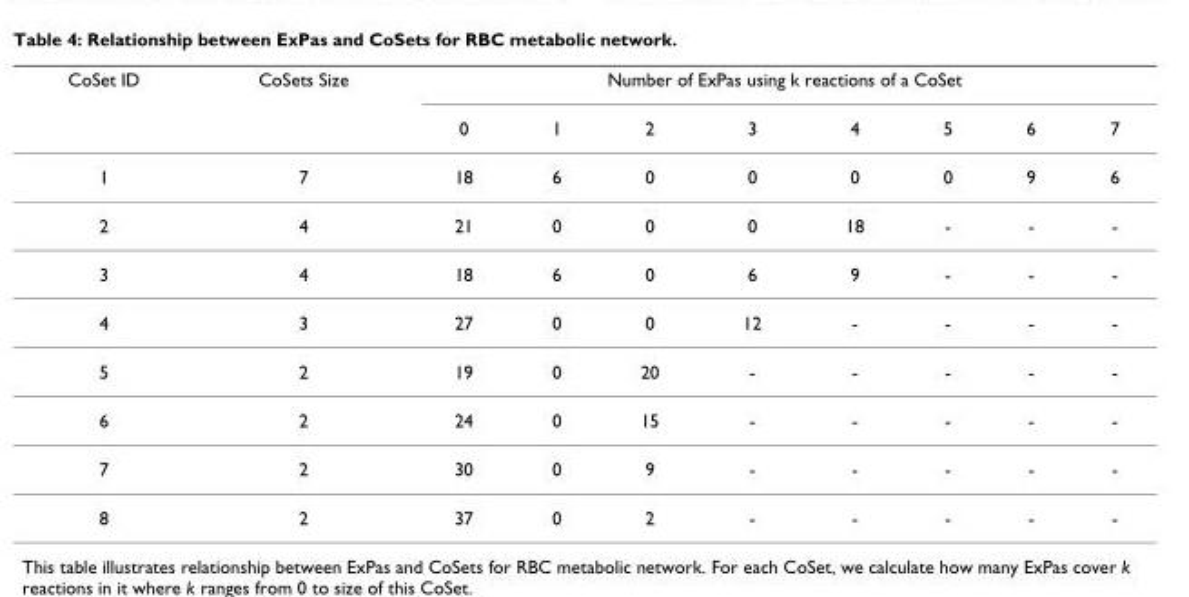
<table><thead><tr><td rowspan="2">CoSet ID</td><td rowspan="2">CoSets Size</td><td colspan="8">Number of ExPas using k reactions of a CoSet</td></tr><tr><td>0</td><td>1</td><td>2</td><td>3</td><td>4</td><td>5</td><td>6</td><td>7</td></tr></thead><tbody><tr><td>1</td><td>7</td><td>18</td><td>6</td><td>0</td><td>0</td><td>0</td><td>0</td><td>9</td><td>6</td></tr><tr><td>2</td><td>4</td><td>21</td><td>0</td><td>0</td><td>0</td><td>18</td><td>-</td><td>-</td><td>-</td></tr><tr><td>3</td><td>4</td><td>18</td><td>6</td><td>0</td><td>6</td><td>9</td><td>-</td><td>-</td><td>-</td></tr><tr><td>4</td><td>3</td><td>27</td><td>0</td><td>0</td><td>12</td><td>-</td><td>-</td><td>-</td><td>-</td></tr><tr><td>5</td><td>2</td><td>19</td><td>0</td><td>20</td><td>-</td><td>-</td><td>-</td><td>-</td><td>-</td></tr><tr><td>6</td><td>2</td><td>24</td><td>0</td><td>15</td><td>-</td><td>-</td><td>-</td><td>-</td><td>-</td></tr><tr><td>7</td><td>2</td><td>30</td><td>0</td><td>9</td><td>-</td><td>-</td><td>-</td><td>-</td><td>-</td></tr><tr><td>8</td><td>2</td><td>37</td><td>0</td><td>2</td><td>-</td><td>-</td><td>-</td><td>-</td><td>-</td></tr></tbody></table>